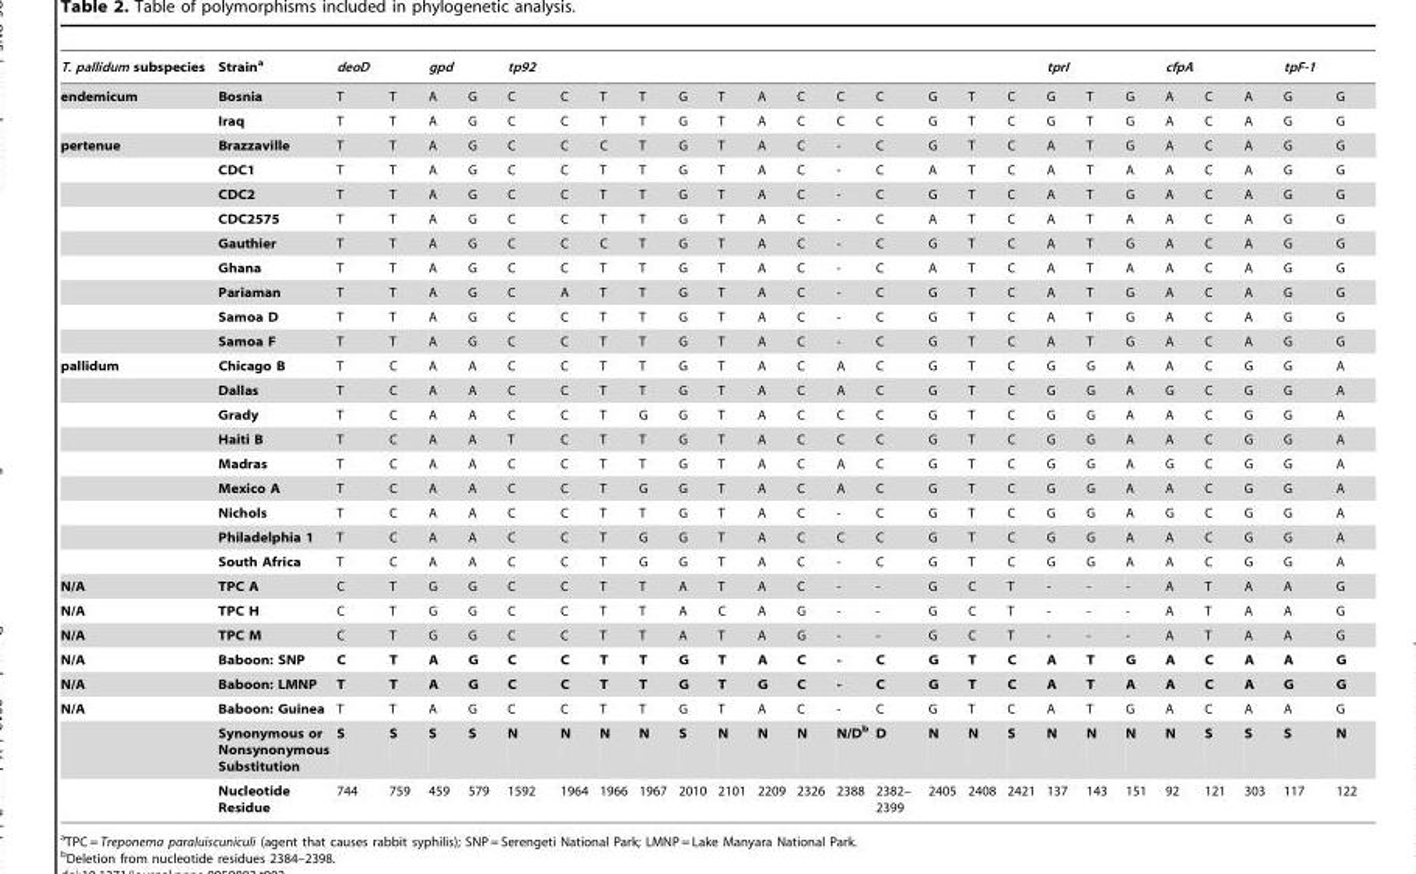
<table><thead><tr><td>T. pallidum subspecies</td><td>Strain<sup>a</sup></td><td>deoD</td><td></td><td>gpd</td><td></td><td>tp92</td><td></td><td></td><td></td><td></td><td></td><td></td><td></td><td></td><td></td><td></td><td></td><td></td><td>tprI</td><td></td><td></td><td>cfpA</td><td></td><td></td><td>tpF-1</td><td></td></tr></thead><tbody><tr><td rowspan="2">endemicum</td><td>Bosnia</td><td>T</td><td>T</td><td>A</td><td>G</td><td>C</td><td>C</td><td>T</td><td>T</td><td>G</td><td>T</td><td>A</td><td>C</td><td>C</td><td>C</td><td>G</td><td>T</td><td>C</td><td>G</td><td>T</td><td>G</td><td>A</td><td>C</td><td>A</td><td>G</td><td>G</td></tr><tr><td>Iraq</td><td>T</td><td>T</td><td>A</td><td>G</td><td>C</td><td>C</td><td>T</td><td>T</td><td>G</td><td>T</td><td>A</td><td>C</td><td>C</td><td>C</td><td>G</td><td>T</td><td>C</td><td>G</td><td>T</td><td>G</td><td>A</td><td>C</td><td>A</td><td>G</td><td>G</td></tr><tr><td rowspan="9">pertenue</td><td>Brazzaville</td><td>T</td><td>T</td><td>A</td><td>G</td><td>C</td><td>C</td><td>C</td><td>T</td><td>G</td><td>T</td><td>A</td><td>C</td><td>-</td><td>C</td><td>G</td><td>T</td><td>C</td><td>A</td><td>T</td><td>G</td><td>A</td><td>C</td><td>A</td><td>G</td><td>G</td></tr><tr><td>CDC1</td><td>T</td><td>T</td><td>A</td><td>G</td><td>C</td><td>C</td><td>T</td><td>T</td><td>G</td><td>T</td><td>A</td><td>C</td><td>-</td><td>C</td><td>A</td><td>T</td><td>C</td><td>A</td><td>T</td><td>A</td><td>A</td><td>C</td><td>A</td><td>G</td><td>G</td></tr><tr><td>CDC2</td><td>T</td><td>T</td><td>A</td><td>G</td><td>C</td><td>C</td><td>T</td><td>T</td><td>G</td><td>T</td><td>A</td><td>C</td><td>-</td><td>C</td><td>G</td><td>T</td><td>C</td><td>A</td><td>T</td><td>G</td><td>A</td><td>C</td><td>A</td><td>G</td><td>G</td></tr><tr><td>CDC2575</td><td>T</td><td>T</td><td>A</td><td>G</td><td>C</td><td>C</td><td>T</td><td>T</td><td>G</td><td>T</td><td>A</td><td>C</td><td>-</td><td>C</td><td>A</td><td>T</td><td>C</td><td>A</td><td>T</td><td>A</td><td>A</td><td>C</td><td>A</td><td>G</td><td>G</td></tr><tr><td>Gauthier</td><td>T</td><td>T</td><td>A</td><td>G</td><td>C</td><td>C</td><td>C</td><td>T</td><td>G</td><td>T</td><td>A</td><td>C</td><td>-</td><td>C</td><td>G</td><td>T</td><td>C</td><td>A</td><td>T</td><td>G</td><td>A</td><td>C</td><td>A</td><td>G</td><td>G</td></tr><tr><td>Ghana</td><td>T</td><td>T</td><td>A</td><td>G</td><td>C</td><td>C</td><td>T</td><td>T</td><td>G</td><td>T</td><td>A</td><td>C</td><td>-</td><td>C</td><td>A</td><td>T</td><td>C</td><td>A</td><td>T</td><td>A</td><td>A</td><td>C</td><td>A</td><td>G</td><td>G</td></tr><tr><td>Pariaman</td><td>T</td><td>T</td><td>A</td><td>G</td><td>C</td><td>A</td><td>T</td><td>T</td><td>G</td><td>T</td><td>A</td><td>C</td><td>-</td><td>C</td><td>G</td><td>T</td><td>C</td><td>A</td><td>T</td><td>G</td><td>A</td><td>C</td><td>A</td><td>G</td><td>G</td></tr><tr><td>Samoa D</td><td>T</td><td>T</td><td>A</td><td>G</td><td>C</td><td>C</td><td>T</td><td>T</td><td>G</td><td>T</td><td>A</td><td>C</td><td>-</td><td>C</td><td>G</td><td>T</td><td>C</td><td>A</td><td>T</td><td>G</td><td>A</td><td>C</td><td>A</td><td>G</td><td>G</td></tr><tr><td>Samoa F</td><td>T</td><td>T</td><td>A</td><td>G</td><td>C</td><td>C</td><td>T</td><td>T</td><td>G</td><td>T</td><td>A</td><td>C</td><td>-</td><td>C</td><td>G</td><td>T</td><td>C</td><td>A</td><td>T</td><td>G</td><td>A</td><td>C</td><td>A</td><td>G</td><td>G</td></tr><tr><td rowspan="9">pallidum</td><td>Chicago B</td><td>T</td><td>C</td><td>A</td><td>A</td><td>C</td><td>C</td><td>T</td><td>T</td><td>G</td><td>T</td><td>A</td><td>C</td><td>A</td><td>C</td><td>G</td><td>T</td><td>C</td><td>G</td><td>G</td><td>A</td><td>A</td><td>C</td><td>G</td><td>G</td><td>A</td></tr><tr><td>Dallas</td><td>T</td><td>C</td><td>A</td><td>A</td><td>C</td><td>C</td><td>T</td><td>T</td><td>G</td><td>T</td><td>A</td><td>C</td><td>A</td><td>C</td><td>G</td><td>T</td><td>C</td><td>G</td><td>G</td><td>A</td><td>G</td><td>C</td><td>G</td><td>G</td><td>A</td></tr><tr><td>Grady</td><td>T</td><td>C</td><td>A</td><td>A</td><td>C</td><td>C</td><td>T</td><td>G</td><td>G</td><td>T</td><td>A</td><td>C</td><td>C</td><td>C</td><td>G</td><td>T</td><td>C</td><td>G</td><td>G</td><td>A</td><td>A</td><td>C</td><td>G</td><td>G</td><td>A</td></tr><tr><td>Haiti B</td><td>T</td><td>C</td><td>A</td><td>A</td><td>T</td><td>C</td><td>T</td><td>T</td><td>G</td><td>T</td><td>A</td><td>C</td><td>C</td><td>C</td><td>G</td><td>T</td><td>C</td><td>G</td><td>G</td><td>A</td><td>A</td><td>C</td><td>G</td><td>G</td><td>A</td></tr><tr><td>Madras</td><td>T</td><td>C</td><td>A</td><td>A</td><td>C</td><td>C</td><td>T</td><td>T</td><td>G</td><td>T</td><td>A</td><td>C</td><td>A</td><td>C</td><td>G</td><td>T</td><td>C</td><td>G</td><td>G</td><td>A</td><td>G</td><td>C</td><td>G</td><td>G</td><td>A</td></tr><tr><td>Mexico A</td><td>T</td><td>C</td><td>A</td><td>A</td><td>C</td><td>C</td><td>T</td><td>G</td><td>G</td><td>T</td><td>A</td><td>C</td><td>A</td><td>C</td><td>G</td><td>T</td><td>C</td><td>G</td><td>G</td><td>A</td><td>A</td><td>C</td><td>G</td><td>G</td><td>A</td></tr><tr><td>Nichols</td><td>T</td><td>C</td><td>A</td><td>A</td><td>C</td><td>C</td><td>T</td><td>T</td><td>G</td><td>T</td><td>A</td><td>C</td><td>-</td><td>C</td><td>G</td><td>T</td><td>C</td><td>G</td><td>G</td><td>A</td><td>G</td><td>C</td><td>G</td><td>G</td><td>A</td></tr><tr><td>Philadelphia 1</td><td>T</td><td>C</td><td>A</td><td>A</td><td>C</td><td>C</td><td>T</td><td>G</td><td>G</td><td>T</td><td>A</td><td>C</td><td>C</td><td>C</td><td>G</td><td>T</td><td>C</td><td>G</td><td>G</td><td>A</td><td>A</td><td>C</td><td>G</td><td>G</td><td>A</td></tr><tr><td>South Africa</td><td>T</td><td>C</td><td>A</td><td>A</td><td>C</td><td>C</td><td>T</td><td>G</td><td>G</td><td>T</td><td>A</td><td>C</td><td>-</td><td>C</td><td>G</td><td>T</td><td>C</td><td>G</td><td>G</td><td>A</td><td>A</td><td>C</td><td>G</td><td>G</td><td>A</td></tr><tr><td>N/A</td><td>TPC A</td><td>C</td><td>T</td><td>G</td><td>G</td><td>C</td><td>C</td><td>T</td><td>T</td><td>A</td><td>T</td><td>A</td><td>C</td><td>-</td><td>-</td><td>G</td><td>C</td><td>T</td><td>-</td><td>-</td><td>-</td><td>A</td><td>T</td><td>A</td><td>A</td><td>G</td></tr><tr><td>N/A</td><td>TPC H</td><td>C</td><td>T</td><td>G</td><td>G</td><td>C</td><td>C</td><td>T</td><td>T</td><td>A</td><td>C</td><td>A</td><td>G</td><td>-</td><td>-</td><td>G</td><td>C</td><td>T</td><td>-</td><td>-</td><td>-</td><td>A</td><td>T</td><td>A</td><td>A</td><td>G</td></tr><tr><td>N/A</td><td>TPC M</td><td>C</td><td>T</td><td>G</td><td>G</td><td>C</td><td>C</td><td>T</td><td>T</td><td>A</td><td>T</td><td>A</td><td>G</td><td>-</td><td>-</td><td>G</td><td>C</td><td>T</td><td>-</td><td>-</td><td>-</td><td>A</td><td>T</td><td>A</td><td>A</td><td>G</td></tr><tr><td>N/A</td><td>Baboon: SNP</td><td>C</td><td>T</td><td>A</td><td>G</td><td>C</td><td>C</td><td>T</td><td>T</td><td>G</td><td>T</td><td>A</td><td>C</td><td>-</td><td>C</td><td>G</td><td>T</td><td>C</td><td>A</td><td>T</td><td>G</td><td>A</td><td>C</td><td>A</td><td>A</td><td>G</td></tr><tr><td>N/A</td><td>Baboon: LMNP</td><td>T</td><td>T</td><td>A</td><td>G</td><td>C</td><td>C</td><td>T</td><td>T</td><td>G</td><td>T</td><td>G</td><td>C</td><td>-</td><td>C</td><td>G</td><td>T</td><td>C</td><td>A</td><td>T</td><td>A</td><td>A</td><td>C</td><td>A</td><td>G</td><td>G</td></tr><tr><td rowspan="3">N/A</td><td>Baboon: Guinea</td><td>T</td><td>T</td><td>A</td><td>G</td><td>C</td><td>C</td><td>T</td><td>T</td><td>G</td><td>T</td><td>A</td><td>C</td><td>-</td><td>C</td><td>G</td><td>T</td><td>C</td><td>A</td><td>T</td><td>G</td><td>A</td><td>C</td><td>A</td><td>A</td><td>G</td></tr><tr><td>Synonymous or Nonsynonymous Substitution</td><td>S</td><td>S</td><td>S</td><td>S</td><td>N</td><td>N</td><td>N</td><td>N</td><td>S</td><td>N</td><td>N</td><td>N</td><td>N/Db</td><td>D</td><td>N</td><td>N</td><td>S</td><td>N</td><td>N</td><td>N</td><td>N</td><td>S</td><td>S</td><td>S</td><td>N</td></tr><tr><td>Nucleotide Residue</td><td>744</td><td>759</td><td>459</td><td>579</td><td>1592</td><td>1964</td><td>1966</td><td>1967</td><td>2010</td><td>2101</td><td>2209</td><td>2326</td><td>2388</td><td>2382– 2399</td><td>2405</td><td>2408</td><td>2421</td><td>137</td><td>143</td><td>151</td><td>92</td><td>121</td><td>303</td><td>117</td><td>122</td></tr></tbody></table>